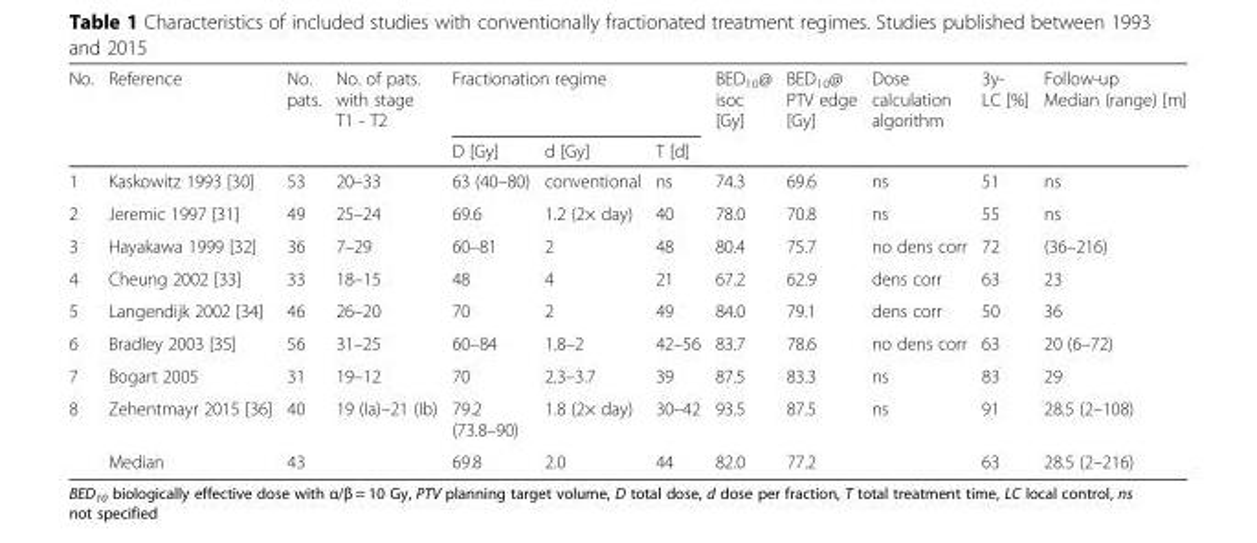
<table><thead><tr><td rowspan="2">No.</td><td rowspan="2">Reference</td><td rowspan="2">No. pats.</td><td rowspan="2">No. of pats. with stage T1 - T2</td><td colspan="3">Fractionation regime</td><td rowspan="2">BED<sub>10</sub>@ isoc [Gy]</td><td rowspan="2">BED<sub>10</sub>@ PTV edge [Gy]</td><td rowspan="2">Dose calculation algorithm</td><td rowspan="2">3y- LC [%]</td><td rowspan="2">Follow-up Median (range) [m]</td></tr><tr><td>D [Gy]</td><td>d [Gy]</td><td>T [d]</td></tr></thead><tbody><tr><td>1</td><td>Kaskowitz 1993 [30]</td><td>53</td><td>20–33</td><td>63 (40–80)</td><td>conventional</td><td>ns</td><td>74.3</td><td>69.6</td><td>ns</td><td>51</td><td>ns</td></tr><tr><td>2</td><td>Jeremic 1997 [31]</td><td>49</td><td>25–24</td><td>69.6</td><td>1.2 (2× day)</td><td>40</td><td>78.0</td><td>70.8</td><td>ns</td><td>55</td><td>ns</td></tr><tr><td>3</td><td>Hayakawa 1999 [32]</td><td>36</td><td>7–29</td><td>60–81</td><td>2</td><td>48</td><td>80.4</td><td>75.7</td><td>no dens corr</td><td>72</td><td>(36–216)</td></tr><tr><td>4</td><td>Cheung 2002 [33]</td><td>33</td><td>18–15</td><td>48</td><td>4</td><td>21</td><td>67.2</td><td>62.9</td><td>dens corr</td><td>63</td><td>23</td></tr><tr><td>5</td><td>Langendijk 2002 [34]</td><td>46</td><td>26–20</td><td>70</td><td>2</td><td>49</td><td>84.0</td><td>79.1</td><td>dens corr</td><td>50</td><td>36</td></tr><tr><td>6</td><td>Bradley 2003 [35]</td><td>56</td><td>31–25</td><td>60–84</td><td>1.8–2</td><td>42–56</td><td>83.7</td><td>78.6</td><td>no dens corr</td><td>63</td><td>20 (6–72)</td></tr><tr><td>7</td><td>Bogart 2005</td><td>31</td><td>19–12</td><td>70</td><td>2.3–3.7</td><td>39</td><td>87.5</td><td>83.3</td><td>ns</td><td>83</td><td>29</td></tr><tr><td rowspan="2">8</td><td>Zehentmayr 2015 [36]</td><td>40</td><td>19 (Ia)–21 (Ib)</td><td>79.2 (73.8–90)</td><td>1.8 (2× day)</td><td>30–42</td><td>93.5</td><td>87.5</td><td>ns</td><td>91</td><td>28.5 (2–108)</td></tr><tr><td>Median</td><td>43</td><td></td><td>69.8</td><td>2.0</td><td>44</td><td>82.0</td><td>77.2</td><td></td><td>63</td><td>28.5 (2–216)</td></tr></tbody></table>